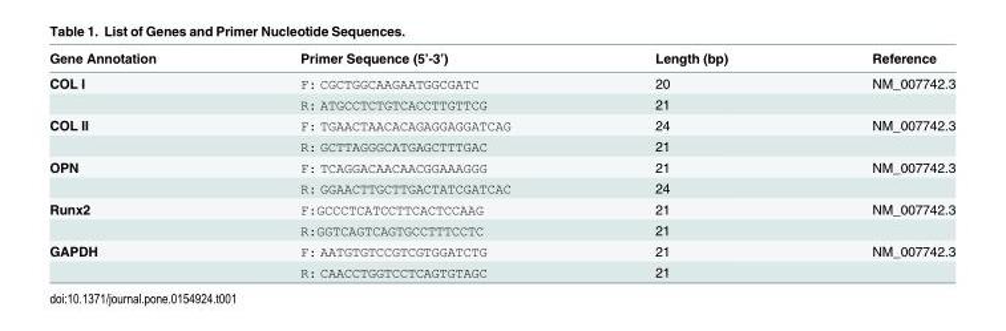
<table><thead><tr><td>Gene Annotation</td><td>Primer Sequence (5’-3’)</td><td>Length (bp)</td><td>Reference</td></tr></thead><tbody><tr><td rowspan="2">COL I</td><td>F: CGCTGGCAAGAATGGCGATC</td><td>20</td><td>NM_007742.3</td></tr><tr><td>R: ATGCCTCTGTCACCTTGTTCG</td><td>21</td><td></td></tr><tr><td rowspan="2">COL II</td><td>F: TGAACTAACACAGAGGAGGATCAG</td><td>24</td><td>NM_007742.3</td></tr><tr><td>R: GCTTAGGGCATGAGCTTTGAC</td><td>21</td><td></td></tr><tr><td rowspan="2">OPN</td><td>F: TCAGGACAACAACGGAAAGGG</td><td>21</td><td>NM_007742.3</td></tr><tr><td>R: GGAACTTGCTTGACTATCGATCAC</td><td>24</td><td></td></tr><tr><td rowspan="2">Runx2</td><td>F:GCCCTCATCCTTCACTCCAAG</td><td>21</td><td>NM_007742.3</td></tr><tr><td>R:GGTCAGTCAGTGCCTTTCCTC</td><td>21</td><td></td></tr><tr><td rowspan="2">GAPDH</td><td>F: AATGTGTCCGTCGTGGATCTG</td><td>21</td><td>NM_007742.3</td></tr><tr><td>R: CAACCTGGTCCTCAGTGTAGC</td><td>21</td><td></td></tr></tbody></table>